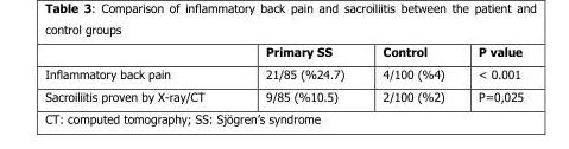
<table><thead><tr><td></td><td>Primary SS</td><td>Control</td><td>P value</td></tr></thead><tbody><tr><td>Inflammatory back pain</td><td>21/85 (%24.7)</td><td>4/100 (%4)</td><td>&lt; 0.001</td></tr><tr><td>Sacroiliitis proven by X-ray/CT</td><td>9/85 (%10.5)</td><td>2/100 (%2)</td><td>P=0,025</td></tr></tbody></table>